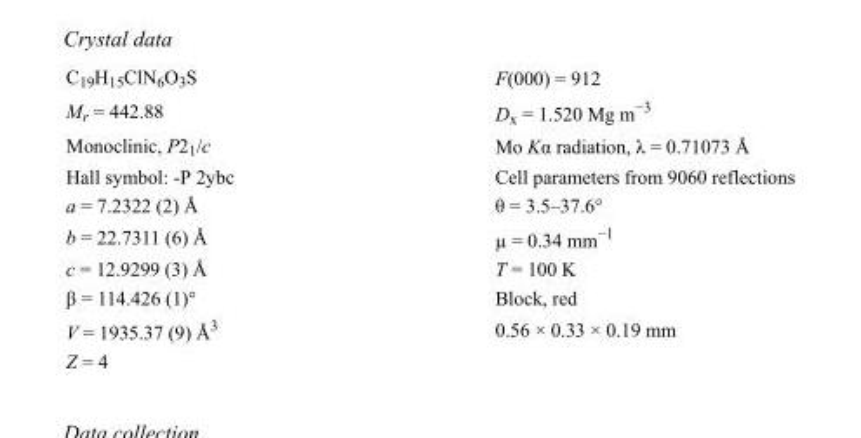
<table><tbody><tr><td>C<sub>19</sub>H<sub>15</sub>ClN<sub>6</sub>O<sub>3</sub>S</td><td>F(000) = 912</td></tr><tr><td>M<sub>r</sub> = 442.88</td><td>D<sub>x</sub> = 1.520 Mg m<sup>−3</sup></td></tr><tr><td>Monoclinic, P2<sub>1</sub>/c</td><td>Mo Kα radiation, λ = 0.71073 Å</td></tr><tr><td>Hall symbol: -P 2ybc</td><td>Cell parameters from 9060 reflections</td></tr><tr><td>a = 7.2322 (2) Å</td><td>θ = 3.5–37.6°</td></tr><tr><td>b = 22.7311 (6) Å</td><td>µ = 0.34 mm<sup>−1</sup></td></tr><tr><td>c = 12.9299 (3) Å</td><td>T = 100 K</td></tr><tr><td>β = 114.426 (1)°</td><td>Block, red</td></tr><tr><td>V = 1935.37 (9) Å<sup>3</sup></td><td>0.56 × 0.33 × 0.19 mm</td></tr><tr><td>Z = 4</td><td></td></tr></tbody></table>